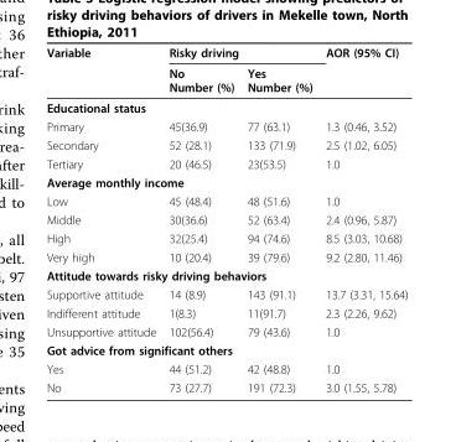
<table><thead><tr><td rowspan="2">Variable</td><td colspan="2">Risky driving</td><td rowspan="2">AOR (95% CI)</td></tr><tr><td>No Number (%)</td><td>Yes Number (%)</td></tr></thead><tbody><tr><td colspan="4">Educational status</td></tr><tr><td>Primary</td><td>45(36.9)</td><td>77 (63.1)</td><td>1.3 (0.46, 3.52)</td></tr><tr><td>Secondary</td><td>52 (28.1)</td><td>133 (71.9)</td><td>2.5 (1.02, 6.05)</td></tr><tr><td>Tertiary</td><td>20 (46.5)</td><td>23(53.5)</td><td>1.0</td></tr><tr><td colspan="4">Average monthly income</td></tr><tr><td>Low</td><td>45 (48.4)</td><td>48 (51.6)</td><td>1.0</td></tr><tr><td>Middle</td><td>30(36.6)</td><td>52 (63.4)</td><td>2.4 (0.96, 5.87)</td></tr><tr><td>High</td><td>32(25.4)</td><td>94 (74.6)</td><td>8.5 (3.03, 10.68)</td></tr><tr><td>Very high</td><td>10 (20.4)</td><td>39 (79.6)</td><td>9.2 (2.80, 11.46)</td></tr><tr><td colspan="4">Attitude towards risky driving behaviors</td></tr><tr><td>Supportive attitude</td><td>14 (8.9)</td><td>143 (91.1)</td><td>13.7 (3.31, 15.64)</td></tr><tr><td>Indifferent attitude</td><td>1(8.3)</td><td>11(91.7)</td><td>2.3 (2.26, 9.62)</td></tr><tr><td>Unsupportive attitude</td><td>102(56.4)</td><td>79 (43.6)</td><td>1.0</td></tr><tr><td colspan="4">Got advice from significant others</td></tr><tr><td>Yes</td><td>44 (51.2)</td><td>42 (48.8)</td><td>1.0</td></tr><tr><td>No</td><td>73 (27.7)</td><td>191 (72.3)</td><td>3.0 (1.55, 5.78)</td></tr></tbody></table>